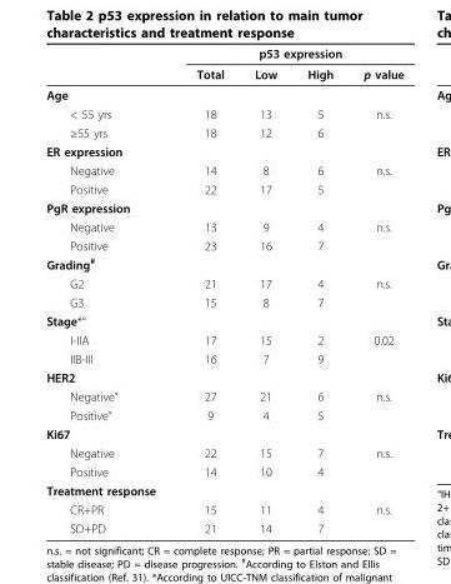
<table><thead><tr><td rowspan="2"></td><td colspan="4">p53 expression</td></tr><tr><td>Total</td><td>Low</td><td>High</td><td>p value</td></tr></thead><tbody><tr><td colspan="5">Age</td></tr><tr><td>&lt; 55 yrs</td><td>18</td><td>13</td><td>5</td><td>n.s.</td></tr><tr><td>≥55 yrs</td><td>18</td><td>12</td><td>6</td><td></td></tr><tr><td colspan="5">ER expression</td></tr><tr><td>Negative</td><td>14</td><td>8</td><td>6</td><td>n.s.</td></tr><tr><td>Positive</td><td>22</td><td>17</td><td>5</td><td></td></tr><tr><td colspan="5">PgR expression</td></tr><tr><td>Negative</td><td>13</td><td>9</td><td>4</td><td>n.s.</td></tr><tr><td>Positive</td><td>23</td><td>16</td><td>7</td><td></td></tr><tr><td colspan="5">Grading<sup>#</sup></td></tr><tr><td>G2</td><td>21</td><td>17</td><td>4</td><td>n.s.</td></tr><tr><td>G3</td><td>15</td><td>8</td><td>7</td><td></td></tr><tr><td colspan="5">Stage*°</td></tr><tr><td>I-IIA</td><td>17</td><td>15</td><td>2</td><td>0.02</td></tr><tr><td>IIB-III</td><td>16</td><td>7</td><td>9</td><td></td></tr><tr><td colspan="5">HER2</td></tr><tr><td>Negative”</td><td>27</td><td>21</td><td>6</td><td>n.s.</td></tr><tr><td>Positive”</td><td>9</td><td>4</td><td>5</td><td></td></tr><tr><td colspan="5">Ki67</td></tr><tr><td>Negative</td><td>22</td><td>15</td><td>7</td><td>n.s.</td></tr><tr><td>Positive</td><td>14</td><td>10</td><td>4</td><td></td></tr><tr><td colspan="5">Treatment response</td></tr><tr><td>CR+PR</td><td>15</td><td>11</td><td>4</td><td>n.s.</td></tr><tr><td>SD+PD</td><td>21</td><td>14</td><td>7</td><td></td></tr></tbody></table>